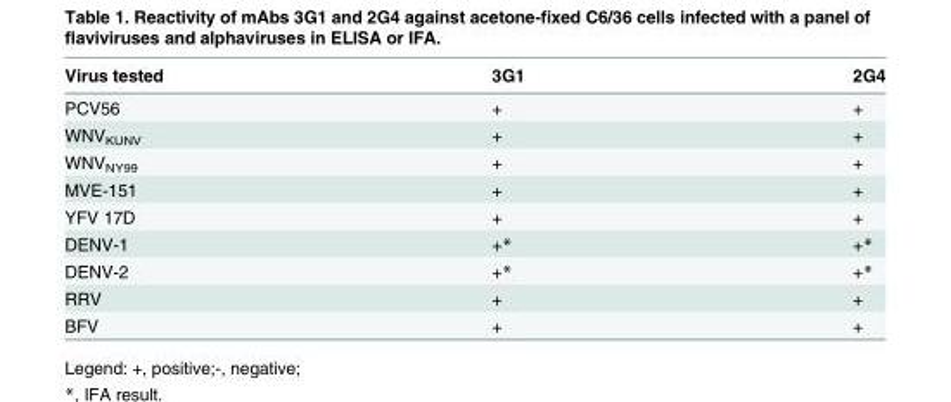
<table><thead><tr><td>Virus tested</td><td>3G1</td><td>2G4</td></tr></thead><tbody><tr><td>PCV56</td><td>+</td><td>+</td></tr><tr><td>WNV<sub>KUNV</sub></td><td>+</td><td>+</td></tr><tr><td>WNV<sub>NY99</sub></td><td>+</td><td>+</td></tr><tr><td>MVE-151</td><td>+</td><td>+</td></tr><tr><td>YFV 17D</td><td>+</td><td>+</td></tr><tr><td>DENV-1</td><td>+*</td><td>+*</td></tr><tr><td>DENV-2</td><td>+*</td><td>+*</td></tr><tr><td>RRV</td><td>+</td><td>+</td></tr><tr><td>BFV</td><td>+</td><td>+</td></tr></tbody></table>